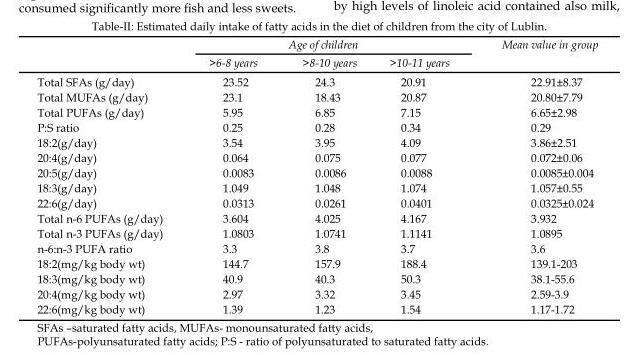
<table><thead><tr><td rowspan="2"></td><td colspan="3">Age of children</td><td rowspan="2">Mean value in group</td></tr><tr><td>&gt;6-8 years</td><td>&gt;8-10 years</td><td>&gt;10-11 years</td></tr></thead><tbody><tr><td>Total SFAs (g/day)</td><td>23.52</td><td>24.3</td><td>20.91</td><td>22.91±8.37</td></tr><tr><td>Total MUFAs (g/day)</td><td>23.1</td><td>18.43</td><td>20.87</td><td>20.80±7.79</td></tr><tr><td>Total PUFAs (g/day)</td><td>5.95</td><td>6.85</td><td>7.15</td><td>6.65±2.98</td></tr><tr><td>P:S ratio</td><td>0.25</td><td>0.28</td><td>0.34</td><td>0.29</td></tr><tr><td>18:2(g/day)</td><td>3.54</td><td>3.95</td><td>4.09</td><td>3.86±2.51</td></tr><tr><td>20:4(g/day)</td><td>0.064</td><td>0.075</td><td>0.077</td><td>0.072±0.06</td></tr><tr><td>20:5(g/day)</td><td>0.0083</td><td>0.0086</td><td>0.0088</td><td>0.0085±0.004</td></tr><tr><td>18:3(g/day)</td><td>1.049</td><td>1.048</td><td>1.074</td><td>1.057±0.55</td></tr><tr><td>22:6(g/day)</td><td>0.0313</td><td>0.0261</td><td>0.0401</td><td>0.0325±0.024</td></tr><tr><td>Total n-6 PUFAs (g/day)</td><td>3.604</td><td>4.025</td><td>4.167</td><td>3.932</td></tr><tr><td>Total n-3 PUFAs (g/day)</td><td>1.0803</td><td>1.0741</td><td>1.1141</td><td>1.0895</td></tr><tr><td>n-6:n-3 PUFA ratio</td><td>3.3</td><td>3.8</td><td>3.7</td><td>3.6</td></tr><tr><td>18:2(mg/kg body wt)</td><td>144.7</td><td>157.9</td><td>188.4</td><td>139.1-203</td></tr><tr><td>18:3(mg/kg body wt)</td><td>40.9</td><td>40.3</td><td>50.3</td><td>38.1-55.6</td></tr><tr><td>20:4(mg/kg body wt)</td><td>2.97</td><td>3.32</td><td>3.45</td><td>2.59-3.9</td></tr><tr><td>22:6(mg/kg body wt)</td><td>1.39</td><td>1.23</td><td>1.54</td><td>1.17-1.72</td></tr></tbody></table>